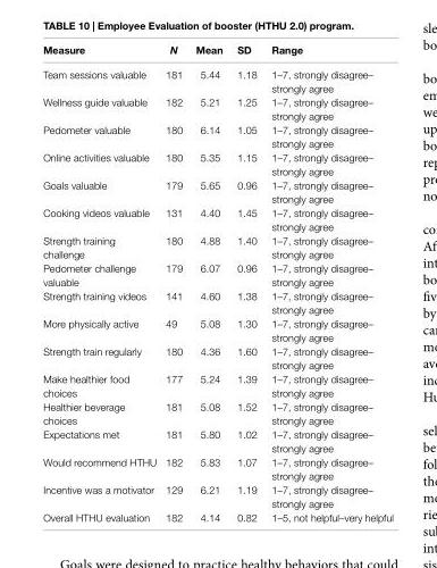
<table><thead><tr><td>Measure</td><td>N</td><td>Mean</td><td>sD</td><td>range</td></tr></thead><tbody><tr><td>Team sessions valuable</td><td>181</td><td>5.44</td><td>1.18</td><td>1–7, strongly disagree– strongly agree</td></tr><tr><td>Wellness guide valuable</td><td>182</td><td>5.21</td><td>1.25</td><td>1–7, strongly disagree– strongly agree</td></tr><tr><td>Pedometer valuable</td><td>180</td><td>6.14</td><td>1.05</td><td>1–7, strongly disagree– strongly agree</td></tr><tr><td>Online activities valuable</td><td>180</td><td>5.35</td><td>1.15</td><td>1–7, strongly disagree– strongly agree</td></tr><tr><td>Goals valuable</td><td>179</td><td>5.65</td><td>0.96</td><td>1–7, strongly disagree– strongly agree</td></tr><tr><td>Cooking videos valuable</td><td>131</td><td>4.40</td><td>1.45</td><td>1–7, strongly disagree– strongly agree</td></tr><tr><td>Strength training challenge</td><td>180</td><td>4.88</td><td>1.40</td><td>1–7, strongly disagree– strongly agree</td></tr><tr><td>Pedometer challenge valuable</td><td>179</td><td>6.07</td><td>0.96</td><td>1–7, strongly disagree– strongly agree</td></tr><tr><td>Strength training videos</td><td>141</td><td>4.60</td><td>1.38</td><td>1–7, strongly disagree– strongly agree</td></tr><tr><td>More physically active</td><td>49</td><td>5.08</td><td>1.30</td><td>1–7, strongly disagree– strongly agree</td></tr><tr><td>Strength train regularly</td><td>180</td><td>4.36</td><td>1.60</td><td>1–7, strongly disagree– strongly agree</td></tr><tr><td>Make healthier food choices</td><td>177</td><td>5.24</td><td>1.39</td><td>1–7, strongly disagree– strongly agree</td></tr><tr><td>Healthier beverage choices</td><td>181</td><td>5.08</td><td>1.52</td><td>1–7, strongly disagree– strongly agree</td></tr><tr><td>Expectations met</td><td>181</td><td>5.80</td><td>1.02</td><td>1–7, strongly disagree– strongly agree</td></tr><tr><td>Would recommend HTHU</td><td>182</td><td>5.83</td><td>1.07</td><td>1–7, strongly disagree– strongly agree</td></tr><tr><td>Incentive was a motivator</td><td>129</td><td>6.21</td><td>1.19</td><td>1–7, strongly disagree– strongly agree</td></tr><tr><td>Overall HTHU evaluation</td><td>182</td><td>4.14</td><td>0.82</td><td>1–5, not helpful–very helpful</td></tr></tbody></table>